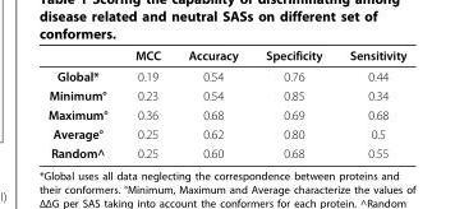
<table><thead><tr><td></td><td>MCC</td><td>Accuracy</td><td>Specificity</td><td>Sensitivity</td></tr></thead><tbody><tr><td>Global*</td><td>0.19</td><td>0.54</td><td>0.76</td><td>0.44</td></tr><tr><td>Minimum°</td><td>0.23</td><td>0.54</td><td>0.85</td><td>0.34</td></tr><tr><td>Maximum°</td><td>0.36</td><td>0.68</td><td>0.69</td><td>0.68</td></tr><tr><td>Average°</td><td>0.25</td><td>0.62</td><td>0.80</td><td>0.5</td></tr><tr><td>Random^</td><td>0.25</td><td>0.60</td><td>0.68</td><td>0.55</td></tr></tbody></table>